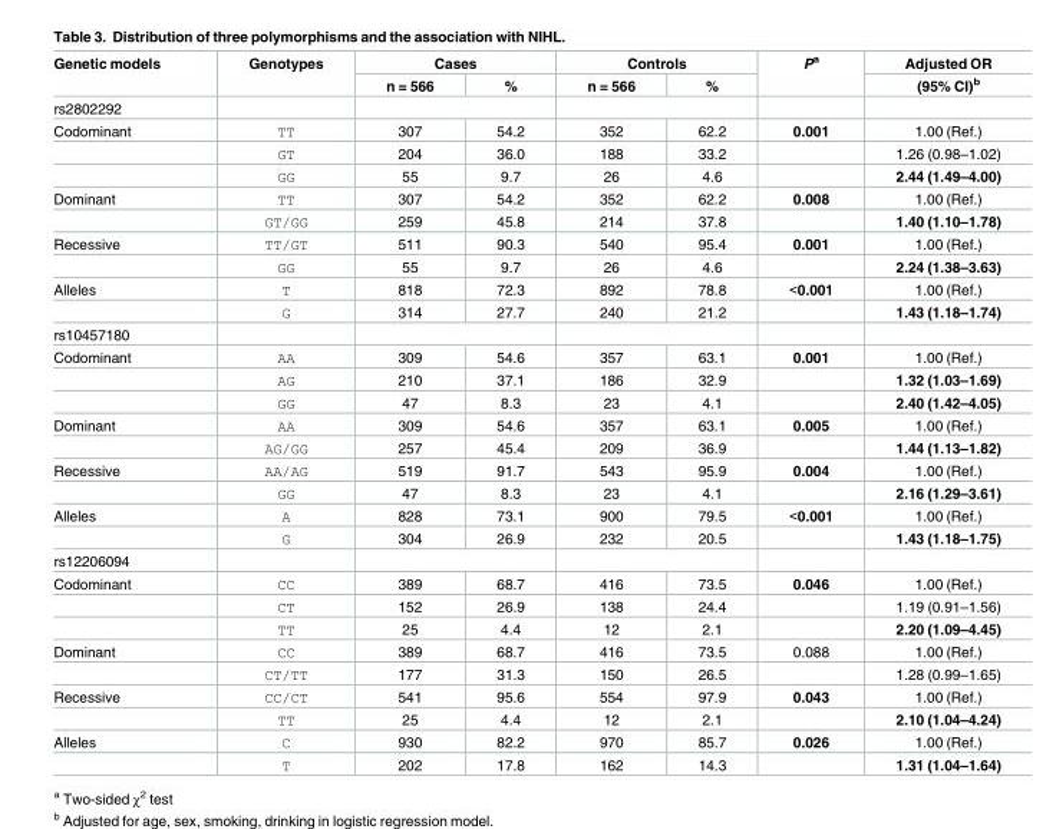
<table><thead><tr><td rowspan="2">Genetic models</td><td rowspan="2">Genotypes</td><td colspan="2">Cases</td><td colspan="2">Controls</td><td rowspan="2">P<sup>a</sup></td><td rowspan="2">Adjusted OR (95% CI)<sup>b</sup></td></tr><tr><td>n = 566</td><td>%</td><td>n = 566</td><td>%</td></tr></thead><tbody><tr><td colspan="8">rs2802292</td></tr><tr><td rowspan="3">Codominant</td><td>TT</td><td>307</td><td>54.2</td><td>352</td><td>62.2</td><td>0.001</td><td>1.00 (Ref.)</td></tr><tr><td>GT</td><td>204</td><td>36.0</td><td>188</td><td>33.2</td><td></td><td>1.26 (0.98–1.02)</td></tr><tr><td>GG</td><td>55</td><td>9.7</td><td>26</td><td>4.6</td><td></td><td>2.44 (1.49–4.00)</td></tr><tr><td rowspan="2">Dominant</td><td>TT</td><td>307</td><td>54.2</td><td>352</td><td>62.2</td><td>0.008</td><td>1.00 (Ref.)</td></tr><tr><td>GT/GG</td><td>259</td><td>45.8</td><td>214</td><td>37.8</td><td></td><td>1.40 (1.10–1.78)</td></tr><tr><td rowspan="2">Recessive</td><td>TT/GT</td><td>511</td><td>90.3</td><td>540</td><td>95.4</td><td>0.001</td><td>1.00 (Ref.)</td></tr><tr><td>GG</td><td>55</td><td>9.7</td><td>26</td><td>4.6</td><td></td><td>2.24 (1.38–3.63)</td></tr><tr><td rowspan="2">Alleles</td><td>T</td><td>818</td><td>72.3</td><td>892</td><td>78.8</td><td>&lt;0.001</td><td>1.00 (Ref.)</td></tr><tr><td>G</td><td>314</td><td>27.7</td><td>240</td><td>21.2</td><td></td><td>1.43 (1.18–1.74)</td></tr><tr><td colspan="8">rs10457180</td></tr><tr><td rowspan="3">Codominant</td><td>AA</td><td>309</td><td>54.6</td><td>357</td><td>63.1</td><td>0.001</td><td>1.00 (Ref.)</td></tr><tr><td>AG</td><td>210</td><td>37.1</td><td>186</td><td>32.9</td><td></td><td>1.32 (1.03–1.69)</td></tr><tr><td>GG</td><td>47</td><td>8.3</td><td>23</td><td>4.1</td><td></td><td>2.40 (1.42–4.05)</td></tr><tr><td rowspan="2">Dominant</td><td>AA</td><td>309</td><td>54.6</td><td>357</td><td>63.1</td><td>0.005</td><td>1.00 (Ref.)</td></tr><tr><td>AG/GG</td><td>257</td><td>45.4</td><td>209</td><td>36.9</td><td></td><td>1.44 (1.13–1.82)</td></tr><tr><td rowspan="2">Recessive</td><td>AA/AG</td><td>519</td><td>91.7</td><td>543</td><td>95.9</td><td>0.004</td><td>1.00 (Ref.)</td></tr><tr><td>GG</td><td>47</td><td>8.3</td><td>23</td><td>4.1</td><td></td><td>2.16 (1.29–3.61)</td></tr><tr><td rowspan="2">Alleles</td><td>A</td><td>828</td><td>73.1</td><td>900</td><td>79.5</td><td>&lt;0.001</td><td>1.00 (Ref.)</td></tr><tr><td>G</td><td>304</td><td>26.9</td><td>232</td><td>20.5</td><td></td><td>1.43 (1.18–1.75)</td></tr><tr><td colspan="8">rs12206094</td></tr><tr><td rowspan="3">Codominant</td><td>CC</td><td>389</td><td>68.7</td><td>416</td><td>73.5</td><td>0.046</td><td>1.00 (Ref.)</td></tr><tr><td>CT</td><td>152</td><td>26.9</td><td>138</td><td>24.4</td><td></td><td>1.19 (0.91–1.56)</td></tr><tr><td>TT</td><td>25</td><td>4.4</td><td>12</td><td>2.1</td><td></td><td>2.20 (1.09–4.45)</td></tr><tr><td rowspan="2">Dominant</td><td>CC</td><td>389</td><td>68.7</td><td>416</td><td>73.5</td><td>0.088</td><td>1.00 (Ref.)</td></tr><tr><td>CT/TT</td><td>177</td><td>31.3</td><td>150</td><td>26.5</td><td></td><td>1.28 (0.99–1.65)</td></tr><tr><td rowspan="2">Recessive</td><td>CC/CT</td><td>541</td><td>95.6</td><td>554</td><td>97.9</td><td>0.043</td><td>1.00 (Ref.)</td></tr><tr><td>TT</td><td>25</td><td>4.4</td><td>12</td><td>2.1</td><td></td><td>2.10 (1.04–4.24)</td></tr><tr><td rowspan="2">Alleles</td><td>C</td><td>930</td><td>82.2</td><td>970</td><td>85.7</td><td>0.026</td><td>1.00 (Ref.)</td></tr><tr><td>T</td><td>202</td><td>17.8</td><td>162</td><td>14.3</td><td></td><td>1.31 (1.04–1.64)</td></tr></tbody></table>